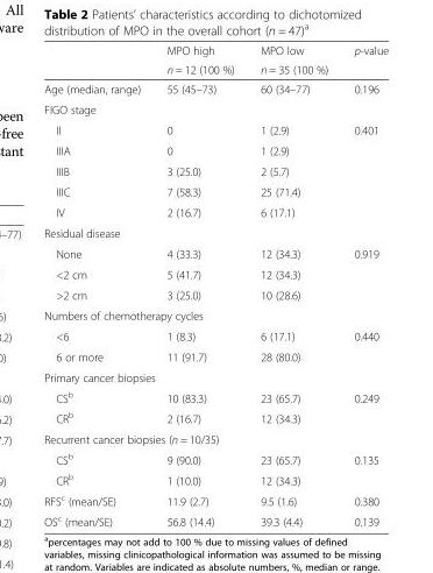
<table><thead><tr><td rowspan="2"></td><td rowspan="2">MPO high n = 12 (100 %)</td><td rowspan="2">MPO low n = 35 (100 %)</td><td rowspan="2">p-value</td></tr><tr></tr></thead><tbody><tr><td>Age (median, range)</td><td>55 (45–73)</td><td>60 (34–77)</td><td>0.196</td></tr><tr><td colspan="4">FIGO stage</td></tr><tr><td>II</td><td>0</td><td>1 (2.9)</td><td rowspan="5">0.401</td></tr><tr><td>IIIA</td><td>0</td><td>1 (2.9)</td></tr><tr><td>IIIB</td><td>3 (25.0)</td><td>2 (5.7)</td></tr><tr><td>IIIC</td><td>7 (58.3)</td><td>25 (71.4)</td></tr><tr><td>IV</td><td>2 (16.7)</td><td>6 (17.1)</td></tr><tr><td colspan="4">Residual disease</td></tr><tr><td>None</td><td>4 (33.3)</td><td>12 (34.3)</td><td rowspan="3">0.919</td></tr><tr><td>&lt;2 cm</td><td>5 (41.7)</td><td>12 (34.3)</td></tr><tr><td>&gt;2 cm</td><td>3 (25.0)</td><td>10 (28.6)</td></tr><tr><td colspan="4">Numbers of chemotherapy cycles</td></tr><tr><td>&lt;6</td><td>1 (8.3)</td><td>6 (17.1)</td><td rowspan="2">0.440</td></tr><tr><td>6 or more</td><td>11 (91.7)</td><td>28 (80.0)</td></tr><tr><td colspan="4">Primary cancer biopsies</td></tr><tr><td>CS<sup>b</sup></td><td>10 (83.3)</td><td>23 (65.7)</td><td rowspan="2">0.249</td></tr><tr><td>CR<sup>b</sup></td><td>2 (16.7)</td><td>12 (34.3)</td></tr><tr><td colspan="4">Recurrent cancer biopsies (n = 10/35)</td></tr><tr><td>CS<sup>b</sup></td><td>9 (90.0)</td><td>23 (65.7)</td><td rowspan="2">0.135</td></tr><tr><td>CR<sup>b</sup></td><td>1 (10.0)</td><td>12 (34.3)</td></tr><tr><td>RFS<sup>c</sup> (mean/SE)</td><td>11.9 (2.7)</td><td>9.5 (1.6)</td><td>0.380</td></tr><tr><td>OS<sup>c</sup> (mean/SE)</td><td>56.8 (14.4)</td><td>39.3 (4.4)</td><td>0.139</td></tr></tbody></table>